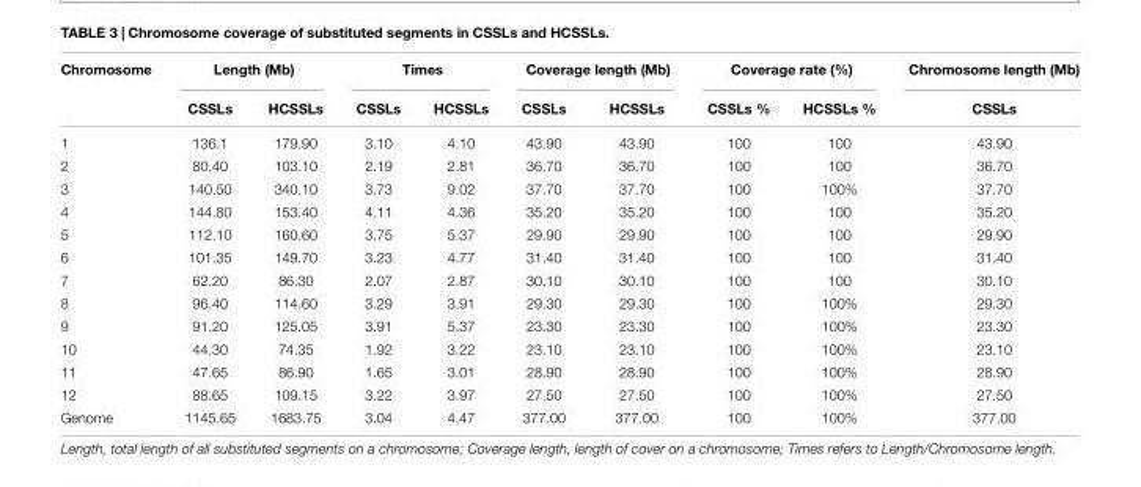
<table><thead><tr><td rowspan="2">Chromosome</td><td colspan="2">Length (Mb)</td><td colspan="2">Times</td><td colspan="2">Coverage length (Mb)</td><td colspan="2">Coverage rate (%)</td><td rowspan="2">Chromosome length (Mb) CSSLs</td></tr><tr><td>CSSLs</td><td>HCSSLs</td><td>CSSLs</td><td>HCSSLs</td><td>CSSLs</td><td>HCSSLs</td><td>CSSLs %</td><td>HCSSLs %</td></tr></thead><tbody><tr><td>1</td><td>136.1</td><td>179.90</td><td>3.10</td><td>4.10</td><td>43.90</td><td>43.90</td><td>100</td><td>100</td><td>43.90</td></tr><tr><td>2</td><td>80.40</td><td>103.10</td><td>2.19</td><td>2.81</td><td>36.70</td><td>36.70</td><td>100</td><td>100</td><td>36.70</td></tr><tr><td>3</td><td>140.50</td><td>340.10</td><td>3.73</td><td>9.02</td><td>37.70</td><td>37.70</td><td>100</td><td>100%</td><td>37.70</td></tr><tr><td>4</td><td>144.80</td><td>153.40</td><td>4.11</td><td>4.36</td><td>35.20</td><td>35.20</td><td>100</td><td>100</td><td>35.20</td></tr><tr><td>5</td><td>112.10</td><td>160.60</td><td>3.75</td><td>5.37</td><td>29.90</td><td>29.90</td><td>100</td><td>100</td><td>29.90</td></tr><tr><td>6</td><td>101.35</td><td>149.70</td><td>3.23</td><td>4.77</td><td>31.40</td><td>31.40</td><td>100</td><td>100</td><td>31.40</td></tr><tr><td>7</td><td>62.20</td><td>86.30</td><td>2.07</td><td>2.87</td><td>30.10</td><td>30.10</td><td>100</td><td>100</td><td>30.10</td></tr><tr><td>8</td><td>96.40</td><td>114.60</td><td>3.29</td><td>3.91</td><td>29.30</td><td>29.30</td><td>100</td><td>100%</td><td>29.30</td></tr><tr><td>9</td><td>91.20</td><td>125.05</td><td>3.91</td><td>5.37</td><td>23.30</td><td>23.30</td><td>100</td><td>100%</td><td>23.30</td></tr><tr><td>10</td><td>44.30</td><td>74.35</td><td>1.92</td><td>3.22</td><td>23.10</td><td>23.10</td><td>100</td><td>100%</td><td>23.10</td></tr><tr><td>11</td><td>47.65</td><td>86.90</td><td>1.65</td><td>3.01</td><td>28.90</td><td>28.90</td><td>100</td><td>100%</td><td>28.90</td></tr><tr><td>12</td><td>88.65</td><td>109.15</td><td>3.22</td><td>3.97</td><td>27.50</td><td>27.50</td><td>100</td><td>100%</td><td>27.50</td></tr><tr><td>Genome</td><td>1145.65</td><td>1683.75</td><td>3.04</td><td>4.47</td><td>377.00</td><td>377.00</td><td>100</td><td>100%</td><td>377.00</td></tr></tbody></table>